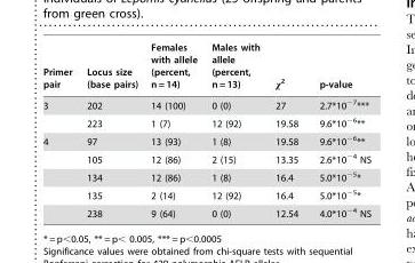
<table><thead><tr><td>Primer pair</td><td>Locus size (base pairs)</td><td>Females with allele (percent, n = 14)</td><td>Males with allele (percent, n = 13)</td><td>χ<sup>2</sup></td><td>p-value</td></tr></thead><tbody><tr><td rowspan="2">3</td><td>202</td><td>14 (100)</td><td>0 (0)</td><td>27</td><td>2.7*10<sup>−7</sup>***</td></tr><tr><td>223</td><td>1 (7)</td><td>12 (92)</td><td>19.58</td><td>9.6*10<sup>−6</sup>**</td></tr><tr><td rowspan="5">4</td><td>97</td><td>13 (93)</td><td>1 (8)</td><td>19.58</td><td>9.6*10<sup>−6</sup>**</td></tr><tr><td>105</td><td>12 (86)</td><td>2 (15)</td><td>13.35</td><td>2.6*10<sup>−4</sup> NS</td></tr><tr><td>134</td><td>12 (86)</td><td>1 (8)</td><td>16.4</td><td>5.0*10<sup>−5</sup>*</td></tr><tr><td>135</td><td>2 (14)</td><td>12 (92)</td><td>16.4</td><td>5.0*10<sup>−5</sup>*</td></tr><tr><td>238</td><td>9 (64)</td><td>0 (0)</td><td>12.54</td><td>4.0*10<sup>−4</sup> NS</td></tr></tbody></table>